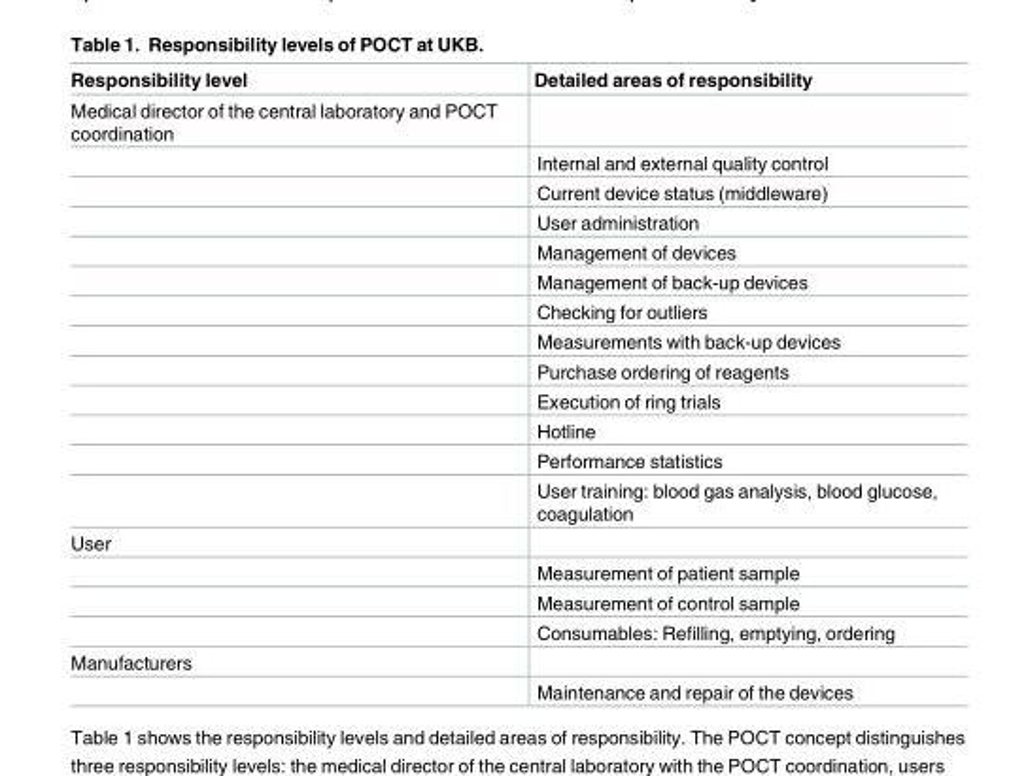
<table><thead><tr><td>Responsibility level</td><td>Detailed areas of responsibility</td></tr></thead><tbody><tr><td colspan="2">Medical director of the central laboratory and POCT coordination</td></tr><tr><td></td><td>Internal and external quality control</td></tr><tr><td></td><td>Current device status (middleware)</td></tr><tr><td></td><td>User administration</td></tr><tr><td></td><td>Management of devices</td></tr><tr><td></td><td>Management of back-up devices</td></tr><tr><td></td><td>Checking for outliers</td></tr><tr><td></td><td>Measurements with back-up devices</td></tr><tr><td></td><td>Purchase ordering of reagents</td></tr><tr><td></td><td>Execution of ring trials</td></tr><tr><td></td><td>Hotline</td></tr><tr><td></td><td>Performance statistics</td></tr><tr><td></td><td>User training: blood gas analysis, blood glucose, coagulation</td></tr><tr><td colspan="2">User</td></tr><tr><td></td><td>Measurement of patient sample</td></tr><tr><td></td><td>Measurement of control sample</td></tr><tr><td></td><td>Consumables: Refilling, emptying, ordering</td></tr><tr><td colspan="2">Manufacturers</td></tr><tr><td></td><td>Maintenance and repair of the devices</td></tr></tbody></table>